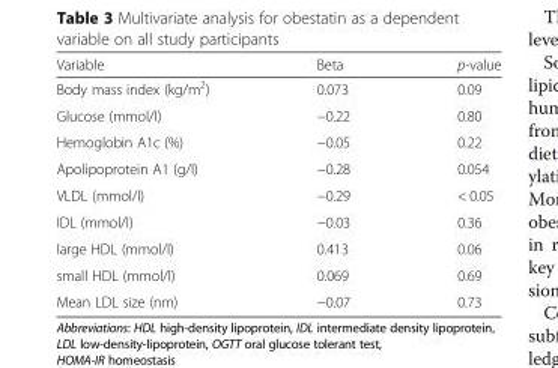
<table><thead><tr><td>Variable</td><td>Beta</td><td>p-value</td></tr></thead><tbody><tr><td>Body mass index (kg/m<sup>2</sup>)</td><td>0.073</td><td>0.09</td></tr><tr><td>Glucose (mmol/l)</td><td>−0.22</td><td>0.80</td></tr><tr><td>Hemoglobin A1c (%)</td><td>−0.05</td><td>0.22</td></tr><tr><td>Apolipoprotein A1 (g/l)</td><td>−0.28</td><td>0.054</td></tr><tr><td>VLDL (mmol/l)</td><td>−0.29</td><td>&lt; 0.05</td></tr><tr><td>IDL (mmol/l)</td><td>−0.03</td><td>0.36</td></tr><tr><td>large HDL (mmol/l)</td><td>0.413</td><td>0.06</td></tr><tr><td>small HDL (mmol/l)</td><td>0.069</td><td>0.69</td></tr><tr><td>Mean LDL size (nm)</td><td>−0.07</td><td>0.73</td></tr></tbody></table>